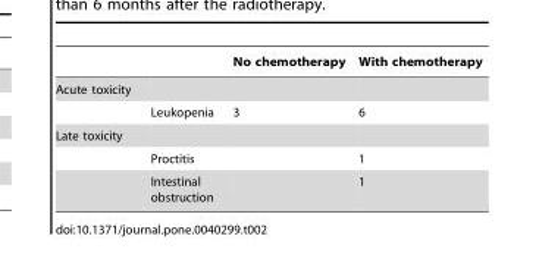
<table><thead><tr><td></td><td></td><td>No chemotherapy</td><td>With chemotherapy</td></tr></thead><tbody><tr><td colspan="4">Acute toxicity</td></tr><tr><td></td><td>Leukopenia</td><td>3</td><td>6</td></tr><tr><td colspan="4">Late toxicity</td></tr><tr><td></td><td>Proctitis</td><td></td><td>1</td></tr><tr><td></td><td>Intestinal obstruction</td><td></td><td>1</td></tr></tbody></table>